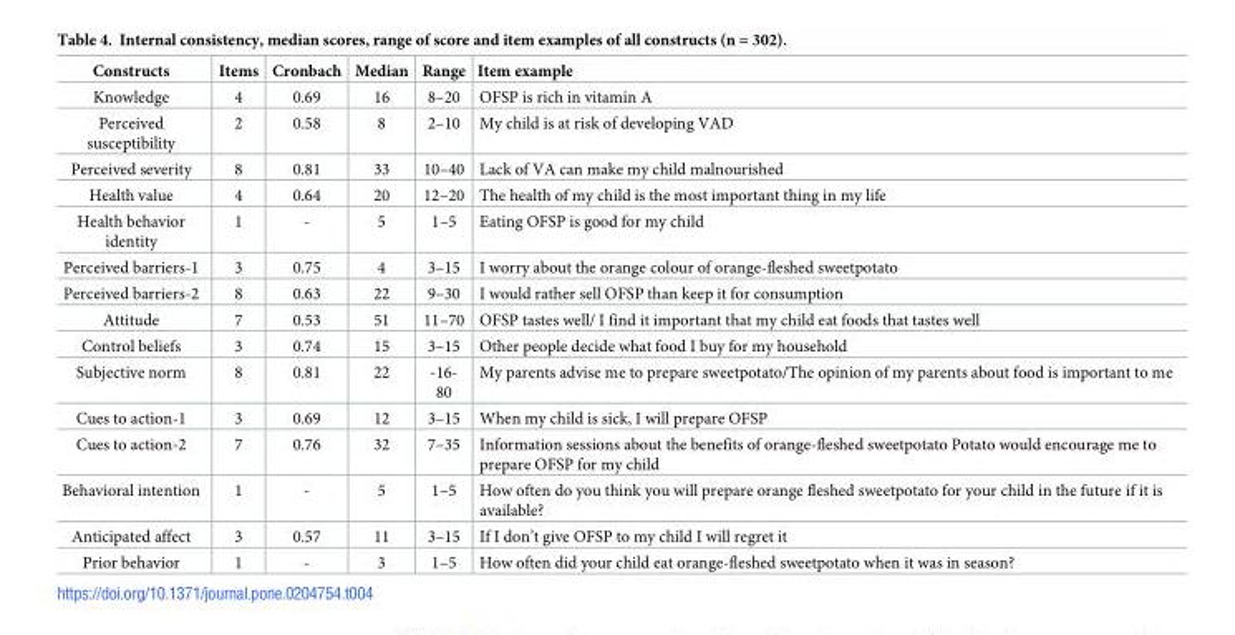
<table><thead><tr><td>Constructs</td><td>Items</td><td>Cronbach</td><td>Median</td><td>Range</td><td>Item example</td></tr></thead><tbody><tr><td>Knowledge</td><td>4</td><td>0.69</td><td>16</td><td>8–20</td><td>OFSP is rich in vitamin A</td></tr><tr><td>Perceived susceptibility</td><td>2</td><td>0.58</td><td>8</td><td>2–10</td><td>My child is at risk of developing VAD</td></tr><tr><td>Perceived severity</td><td>8</td><td>0.81</td><td>33</td><td>10–40</td><td>Lack of VA can make my child malnourished</td></tr><tr><td>Health value</td><td>4</td><td>0.64</td><td>20</td><td>12–20</td><td>The health of my child is the most important thing in my life</td></tr><tr><td>Health behavior identity</td><td>1</td><td>-</td><td>5</td><td>1–5</td><td>Eating OFSP is good for my child</td></tr><tr><td>Perceived barriers-1</td><td>3</td><td>0.75</td><td>4</td><td>3–15</td><td>I worry about the orange colour of orange-fleshed sweetpotato</td></tr><tr><td>Perceived barriers-2</td><td>8</td><td>0.63</td><td>22</td><td>9–30</td><td>I would rather sell OFSP than keep it for consumption</td></tr><tr><td>Attitude</td><td>7</td><td>0.53</td><td>51</td><td>11–70</td><td>OFSP tastes well/ I find it important that my child eat foods that tastes well</td></tr><tr><td>Control beliefs</td><td>3</td><td>0.74</td><td>15</td><td>3–15</td><td>Other people decide what food I buy for my household</td></tr><tr><td>Subjective norm</td><td>8</td><td>0.81</td><td>22</td><td>-16- 80</td><td>My parents advise me to prepare sweetpotato/The opinion of my parents about food is important to me</td></tr><tr><td>Cues to action-1</td><td>3</td><td>0.69</td><td>12</td><td>3–15</td><td>When my child is sick, I will prepare OFSP</td></tr><tr><td>Cues to action-2</td><td>7</td><td>0.76</td><td>32</td><td>7–35</td><td>Information sessions about the benefits of orange-fleshed sweetpotato Potato would encourage me to prepare OFSP for my child</td></tr><tr><td>Behavioral intention</td><td>1</td><td>-</td><td>5</td><td>1–5</td><td>How often do you think you will prepare orange fleshed sweetpotato for your child in the future if it is available?</td></tr><tr><td>Anticipated affect</td><td>3</td><td>0.57</td><td>11</td><td>3–15</td><td>If I don’t give OFSP to my child I will regret it</td></tr><tr><td>Prior behavior</td><td>1</td><td>-</td><td>3</td><td>1–5</td><td>How often did your child eat orange-fleshed sweetpotato when it was in season?</td></tr></tbody></table>